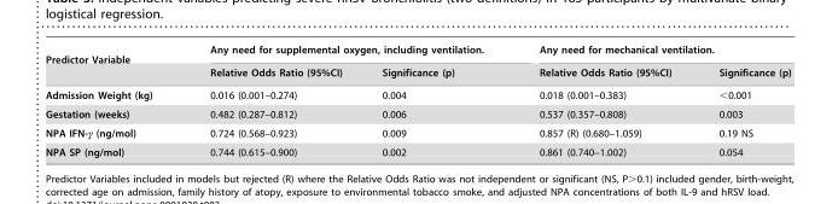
<table><thead><tr><td rowspan="2">Predictor Variable</td><td colspan="2">Any need for supplemental oxygen, including ventilation.</td><td colspan="2">Any need for mechanical ventilation.</td></tr><tr><td>Relative Odds Ratio (95%CI)</td><td>Significance (p)</td><td>Relative Odds Ratio (95%CI)</td><td>Significance (p)</td></tr></thead><tbody><tr><td>Admission Weight (kg)</td><td>0.016 (0.001–0.274)</td><td>0.004</td><td>0.018 (0.001–0.383)</td><td>&lt;0.001</td></tr><tr><td>Gestation (weeks)</td><td>0.482 (0.287–0.812)</td><td>0.006</td><td>0.537 (0.357–0.808)</td><td>0.003</td></tr><tr><td>NPA IFN-γ (ng/mol)</td><td>0.724 (0.568–0.923)</td><td>0.009</td><td>0.857 (R) (0.680–1.059)</td><td>0.19 NS</td></tr><tr><td>NPA SP (ng/mol)</td><td>0.744 (0.615–0.900)</td><td>0.002</td><td>0.861 (0.740–1.002)</td><td>0.054</td></tr></tbody></table>